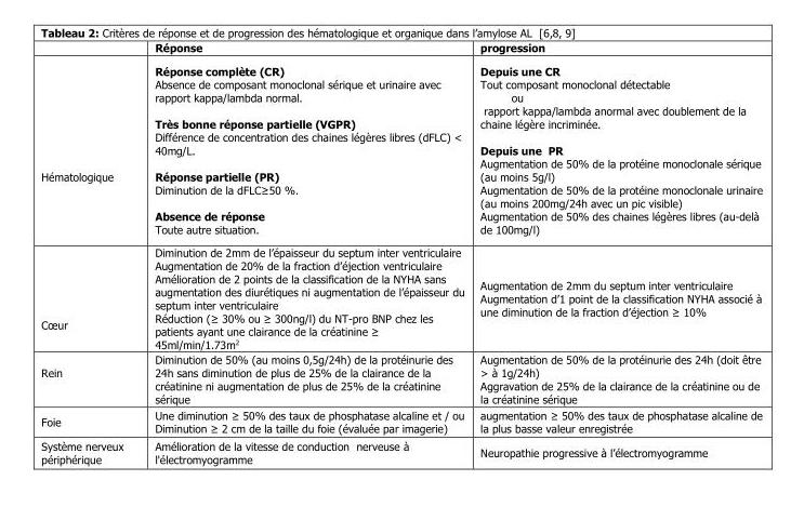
<table><thead><tr><td></td><td>Réponse</td><td>progression</td></tr></thead><tbody><tr><td>Hématologique</td><td>Réponse complète (CR) Absence de composant monoclonal sérique et urinaire avec rapport kappa/lambda normal. Très bonne réponse partielle (VGPR) Différence de concentration des chaines légères libres (dFLC) &lt; 40mg/L. Réponse partielle (PR) Diminution de la dFLC≥50 %. Absence de réponse Toute autre situation.</td><td>Depuis une CR Tout composant monoclonal détectable ou rapport kappa/lambda anormal avec doublement de la chaine légère incriminée. Depuis une PR Augmentation de 50% de la protéine monoclonale sérique (au moins 5g/l) Augmentation de 50% de la protéine monoclonale urinaire (au moins 200mg/24h avec un pic visible) Augmentation de 50% des chaines légères libres (au-delà de 100mg/l)</td></tr><tr><td>Cœur</td><td>Diminution de 2mm de l’épaisseur du septum inter ventriculaire Augmentation de 20% de la fraction d’éjection ventriculaire Amélioration de 2 points de la classification de la NYHA sans augmentation des diurétiques ni augmentation de l’épaisseur du septum inter ventriculaire Réduction (≥ 30% ou ≥ 300ng/l) du NT-pro BNP chez les patients ayant une clairance de la créatinine ≥ 45ml/min/1.73m<sup>2</sup></td><td>Augmentation de 2mm du septum inter ventriculaire Augmentation d’1 point de la classification NYHA associé à une diminution de la fraction d’éjection ≥ 10%</td></tr><tr><td>Rein</td><td>Diminution de 50% (au moins 0,5g/24h) de la protéinurie des 24h sans diminution de plus de 25% de la clairance de la créatinine ni augmentation de plus de 25% de la créatinine sérique</td><td>Augmentation de 50% de la protéinurie des 24h (doit être &gt; à 1g/24h) Aggravation de 25% de la clairance de la créatinine ou de la créatinine sérique</td></tr><tr><td>Foie</td><td>Une diminution ≥ 50% des taux de phosphatase alcaline et / ou Diminution ≥ 2 cm de la taille du foie (évaluée par imagerie)</td><td>augmentation ≥ 50% des taux de phosphatase alcaline de la plus basse valeur enregistrée</td></tr><tr><td>Système nerveux périphérique</td><td>Amélioration de la vitesse de conduction nerveuse à l&#x27;électromyogramme</td><td>Neuropathie progressive à l’électromyogramme</td></tr></tbody></table>